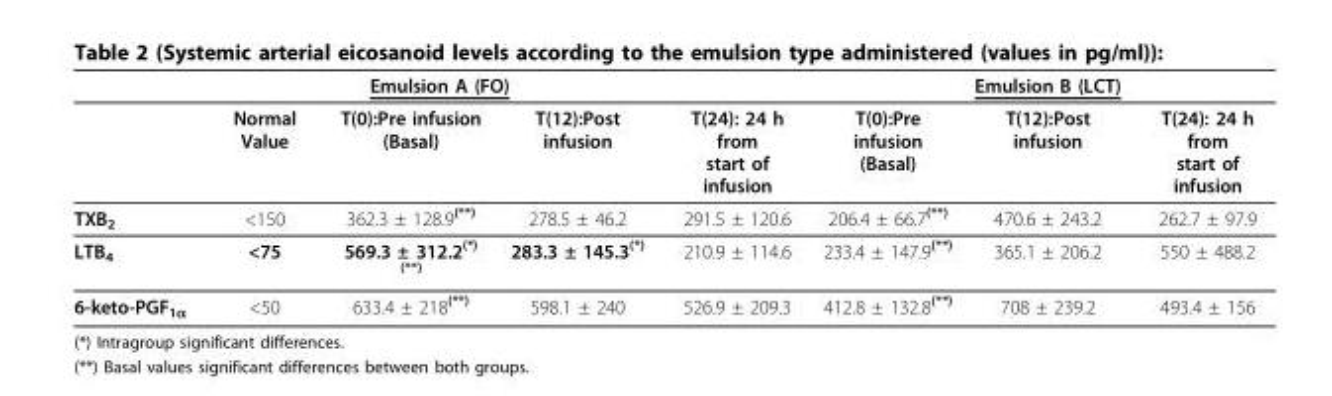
<table><thead><tr><td colspan="5">Emulsion A (FO)</td><td colspan="3">Emulsion B (LCT)</td></tr><tr><td></td><td>Normal Value</td><td>T(0):Pre infusion (Basal)</td><td>T(12):Post infusion</td><td>T(24): 24 h from start of infusion</td><td>T(0):Pre infusion (Basal)</td><td>T(12):Post infusion</td><td>T(24): 24 h from start of infusion</td></tr></thead><tbody><tr><td>TXB<sub>2</sub></td><td>&lt;150</td><td>362.3 ± 128.9<sup>(**)</sup></td><td>278.5 ± 46.2</td><td>291.5 ± 120.6</td><td>206.4 ± 66.7<sup>(**)</sup></td><td>470.6 ± 243.2</td><td>262.7 ± 97.9</td></tr><tr><td>LTB<sub>4</sub></td><td>&lt;75</td><td>569.3 ± 312.2<sup>(*) (**)</sup></td><td>283.3 ± 145.3<sup>(*)</sup></td><td>210.9 ± 114.6</td><td>233.4 ± 147.9<sup>(**)</sup></td><td>365.1 ± 206.2</td><td>550 ± 488.2</td></tr><tr><td>6-keto-PGF<sub>1α</sub></td><td>&lt;50</td><td>633.4 ± 218<sup>(**)</sup></td><td>598.1 ± 240</td><td>526.9 ± 209.3</td><td>412.8 ± 132.8<sup>(**)</sup></td><td>708 ± 239.2</td><td>493.4 ± 156</td></tr></tbody></table>